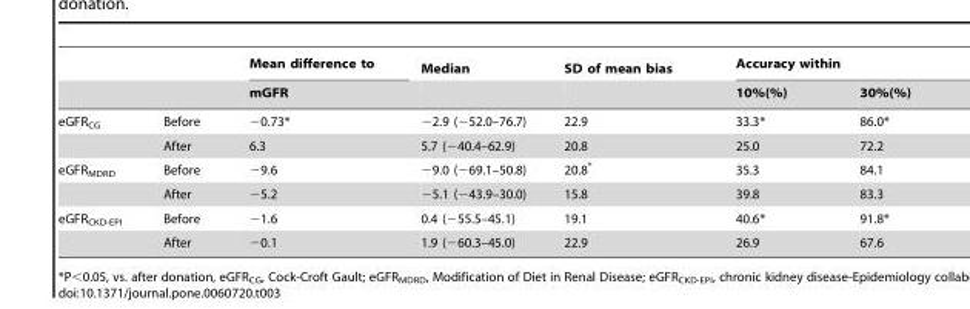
<table><thead><tr><td rowspan="2"></td><td rowspan="2"></td><td rowspan="2">Mean difference to mGFR</td><td rowspan="2">Median</td><td rowspan="2">SD of mean bias</td><td colspan="2">Accuracy within</td></tr><tr><td>10%(%)</td><td>30%(%)</td></tr></thead><tbody><tr><td rowspan="2">eGFR<sub>CG</sub></td><td>Before</td><td>−0.73*</td><td>−2.9 (−52.0–76.7)</td><td>22.9</td><td>33.3*</td><td>86.0*</td></tr><tr><td>After</td><td>6.3</td><td>5.7 (−40.4–62.9)</td><td>20.8</td><td>25.0</td><td>72.2</td></tr><tr><td rowspan="2">eGFR<sub>MDRD</sub></td><td>Before</td><td>−9.6</td><td>−9.0 (−69.1–50.8)</td><td>20.8*</td><td>35.3</td><td>84.1</td></tr><tr><td>After</td><td>−5.2</td><td>−5.1 (−43.9–30.0)</td><td>15.8</td><td>39.8</td><td>83.3</td></tr><tr><td rowspan="2">eGFR<sub>CKD-EPI</sub></td><td>Before</td><td>−1.6</td><td>0.4 (−55.5–45.1)</td><td>19.1</td><td>40.6*</td><td>91.8*</td></tr><tr><td>After</td><td>−0.1</td><td>1.9 (−60.3–45.0)</td><td>22.9</td><td>26.9</td><td>67.6</td></tr></tbody></table>